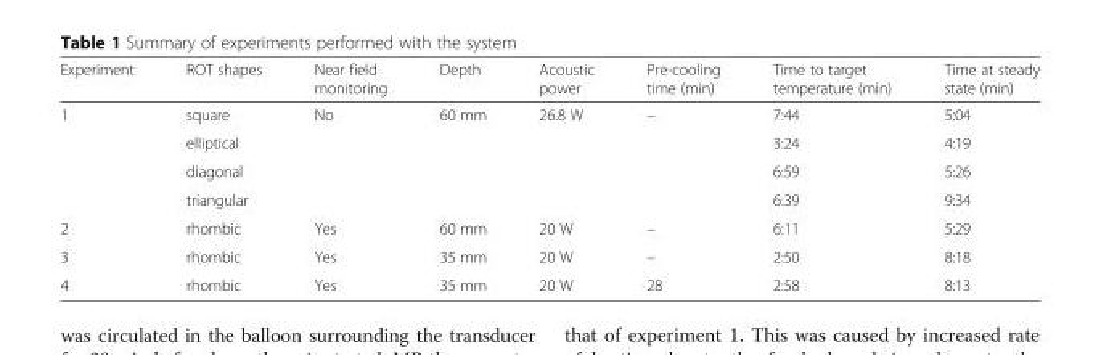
<table><thead><tr><td>Experiment</td><td>ROT shapes</td><td>Near field monitoring</td><td>Depth</td><td>Acoustic power</td><td>Pre-cooling time (min)</td><td>Time to target temperature (min)</td><td>Time at steady state (min)</td></tr></thead><tbody><tr><td rowspan="4">1</td><td>square</td><td>No</td><td>60 mm</td><td>26.8 W</td><td>–</td><td>7:44</td><td>5:04</td></tr><tr><td>elliptical</td><td></td><td></td><td></td><td></td><td>3:24</td><td>4:19</td></tr><tr><td>diagonal</td><td></td><td></td><td></td><td></td><td>6:59</td><td>5:26</td></tr><tr><td>triangular</td><td></td><td></td><td></td><td></td><td>6:39</td><td>9:34</td></tr><tr><td>2</td><td>rhombic</td><td>Yes</td><td>60 mm</td><td>20 W</td><td>–</td><td>6:11</td><td>5:29</td></tr><tr><td>3</td><td>rhombic</td><td>Yes</td><td>35 mm</td><td>20 W</td><td>–</td><td>2:50</td><td>8:18</td></tr><tr><td>4</td><td>rhombic</td><td>Yes</td><td>35 mm</td><td>20 W</td><td>28</td><td>2:58</td><td>8:13</td></tr></tbody></table>